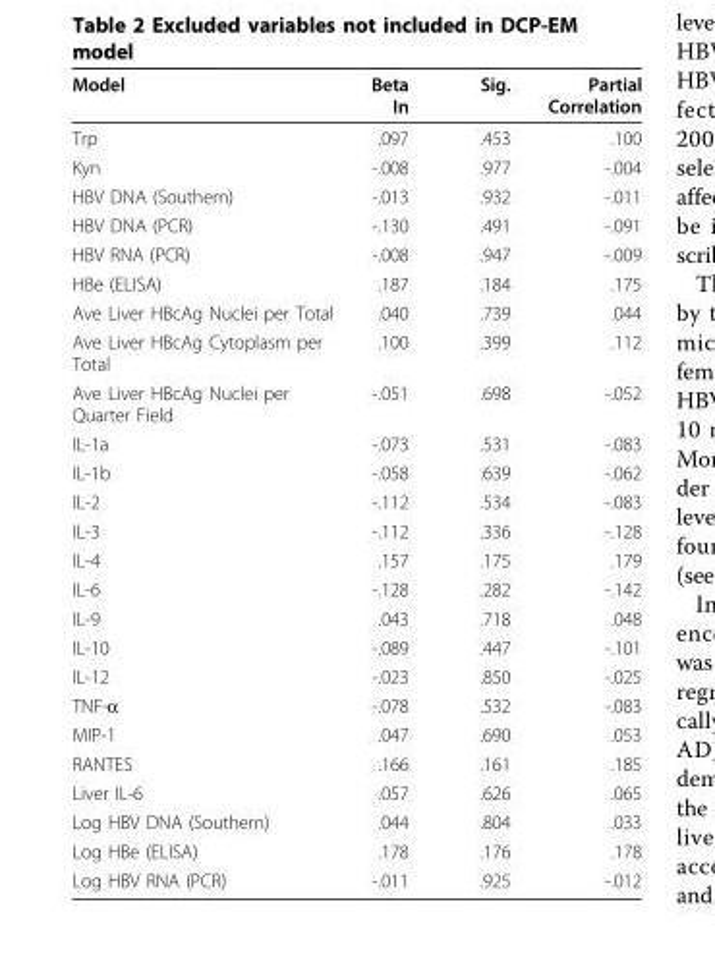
<table><thead><tr><td>Model</td><td>Beta In</td><td>Sig.</td><td>Partial Correlation</td></tr></thead><tbody><tr><td>Trp</td><td>.097</td><td>.453</td><td>.100</td></tr><tr><td>Kyn</td><td>-.008</td><td>.977</td><td>-.004</td></tr><tr><td>HBV DNA (Southern)</td><td>-.013</td><td>.932</td><td>-.011</td></tr><tr><td>HBV DNA (PCR)</td><td>-.130</td><td>.491</td><td>-.091</td></tr><tr><td>HBV RNA (PCR)</td><td>-.008</td><td>.947</td><td>-.009</td></tr><tr><td>HBe (ELISA)</td><td>.187</td><td>.184</td><td>.175</td></tr><tr><td>Ave Liver HBcAg Nuclei per Total</td><td>.040</td><td>.739</td><td>.044</td></tr><tr><td>Ave Liver HBcAg Cytoplasm per Total</td><td>.100</td><td>.399</td><td>.112</td></tr><tr><td>Ave Liver HBcAg Nuclei per Quarter Field</td><td>-.051</td><td>.698</td><td>-.052</td></tr><tr><td>IL-1a</td><td>-.073</td><td>.531</td><td>-.083</td></tr><tr><td>IL-1b</td><td>-.058</td><td>.639</td><td>-.062</td></tr><tr><td>IL-2</td><td>-.112</td><td>.534</td><td>-.083</td></tr><tr><td>IL-3</td><td>-.112</td><td>.336</td><td>-.128</td></tr><tr><td>IL-4</td><td>.157</td><td>.175</td><td>.179</td></tr><tr><td>IL-6</td><td>-.128</td><td>.282</td><td>-.142</td></tr><tr><td>IL-9</td><td>.043</td><td>.718</td><td>.048</td></tr><tr><td>IL-10</td><td>-.089</td><td>.447</td><td>-.101</td></tr><tr><td>IL-12</td><td>-.023</td><td>.850</td><td>-.025</td></tr><tr><td>TNF-α</td><td>-.078</td><td>.532</td><td>-.083</td></tr><tr><td>MIP-1</td><td>.047</td><td>.690</td><td>.053</td></tr><tr><td>RANTES</td><td>.166</td><td>.161</td><td>.185</td></tr><tr><td>Liver IL-6</td><td>.057</td><td>.626</td><td>.065</td></tr><tr><td>Log HBV DNA (Southern)</td><td>.044</td><td>.804</td><td>.033</td></tr><tr><td>Log HBe (ELISA)</td><td>.178</td><td>.176</td><td>.178</td></tr><tr><td>Log HBV RNA (PCR)</td><td>-.011</td><td>.925</td><td>-.012</td></tr></tbody></table>